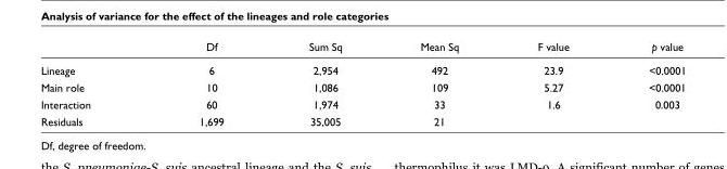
<table><thead><tr><td></td><td>Df</td><td>Sum Sq</td><td>Mean Sq</td><td>F value</td><td>p value</td></tr></thead><tbody><tr><td>Lineage</td><td>6</td><td>2,954</td><td>492</td><td>23.9</td><td>&lt;0.0001</td></tr><tr><td>Main role</td><td>10</td><td>1,086</td><td>109</td><td>5.27</td><td>&lt;0.0001</td></tr><tr><td>Interaction</td><td>60</td><td>1,974</td><td>33</td><td>1.6</td><td>0.003</td></tr><tr><td>Residuals</td><td>1,699</td><td>35,005</td><td>21</td><td></td><td></td></tr></tbody></table>